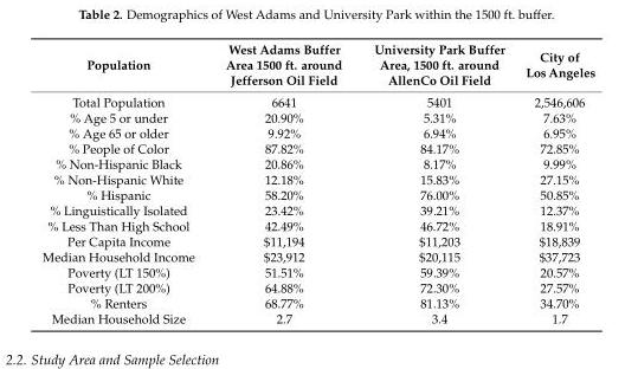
<table><thead><tr><td>Population</td><td>West Adams Buffer Area 1500 ft. around Jefferson Oil Field</td><td>University Park Buffer Area, 1500 ft. around AllenCo Oil Field</td><td>City of Los Angeles</td></tr></thead><tbody><tr><td>Total Population</td><td>6641</td><td>5401</td><td>2,546,606</td></tr><tr><td>% Age 5 or under</td><td>20.90%</td><td>5.31%</td><td>7.63%</td></tr><tr><td>% Age 65 or older</td><td>9.92%</td><td>6.94%</td><td>6.95%</td></tr><tr><td>% People of Color</td><td>87.82%</td><td>84.17%</td><td>72.85%</td></tr><tr><td>% Non-Hispanic Black</td><td>20.86%</td><td>8.17%</td><td>9.99%</td></tr><tr><td>% Non-Hispanic White</td><td>12.18%</td><td>15.83%</td><td>27.15%</td></tr><tr><td>% Hispanic</td><td>58.20%</td><td>76.00%</td><td>50.85%</td></tr><tr><td>% Linguistically Isolated</td><td>23.42%</td><td>39.21%</td><td>12.37%</td></tr><tr><td>% Less Than High School</td><td>42.49%</td><td>46.72%</td><td>18.91%</td></tr><tr><td>Per Capita Income</td><td>$11,194</td><td>$11,203</td><td>$18,839</td></tr><tr><td>Median Household Income</td><td>$23,912</td><td>$20,115</td><td>$37,723</td></tr><tr><td>Poverty (LT 150%)</td><td>51.51%</td><td>59.39%</td><td>20.57%</td></tr><tr><td>Poverty (LT 200%)</td><td>64.88%</td><td>72.30%</td><td>27.57%</td></tr><tr><td>% Renters</td><td>68.77%</td><td>81.13%</td><td>34.70%</td></tr><tr><td>Median Household Size</td><td>2.7</td><td>3.4</td><td>1.7</td></tr></tbody></table>